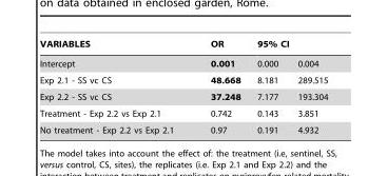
<table><thead><tr><td rowspan="2">VARIABLES Intercept</td><td rowspan="2">OR 0.001</td><td colspan="2">95% CI</td></tr><tr><td>0.000</td><td>0.004</td></tr></thead><tbody><tr><td>Exp 2.1 - SS vc CS</td><td>48.668</td><td>8.181</td><td>289.515</td></tr><tr><td>Exp 2.2 - SS vc CS</td><td>37.248</td><td>7.177</td><td>193.304</td></tr><tr><td>Treatment - Exp 2.2 vs Exp 2.1</td><td>0.742</td><td>0.143</td><td>3.851</td></tr><tr><td>No treatment - Exp 2.2 vs Exp 2.1</td><td>0.97</td><td>0.191</td><td>4.932</td></tr></tbody></table>